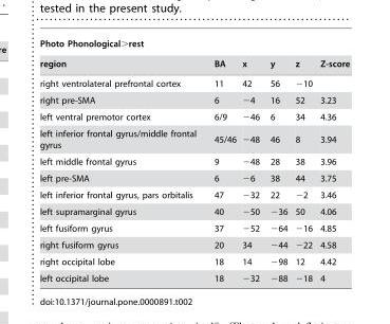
<table><thead><tr><td colspan="6">Photo Phonological&gt;rest</td></tr><tr><td>region</td><td>BA</td><td>x</td><td>y</td><td>z</td><td>Z-score</td></tr></thead><tbody><tr><td>right ventrolateral prefrontal cortex</td><td>11</td><td>42</td><td>56</td><td>−10</td><td></td></tr><tr><td>right pre-SMA</td><td>6</td><td>−4</td><td>16</td><td>52</td><td>3.23</td></tr><tr><td>left ventral premotor cortex</td><td>6/9</td><td>−46</td><td>6</td><td>34</td><td>4.36</td></tr><tr><td>left inferior frontal gyrus/middle frontal gyrus</td><td>45/46</td><td>−48</td><td>46</td><td>8</td><td>3.94</td></tr><tr><td>left middle frontal gyrus</td><td>9</td><td>−48</td><td>28</td><td>38</td><td>3.96</td></tr><tr><td>left pre-SMA</td><td>6</td><td>−6</td><td>38</td><td>44</td><td>3.75</td></tr><tr><td>left inferior frontal gyrus, pars orbitalis</td><td>47</td><td>−32</td><td>22</td><td>−2</td><td>3.46</td></tr><tr><td>left supramarginal gyrus</td><td>40</td><td>−50</td><td>−36</td><td>50</td><td>4.06</td></tr><tr><td>left fusiform gyrus</td><td>37</td><td>−52</td><td>−64</td><td>−16</td><td>4.85</td></tr><tr><td>right fusiform gyrus</td><td>20</td><td>34</td><td>−44</td><td>−22</td><td>4.58</td></tr><tr><td>right occipital lobe</td><td>18</td><td>14</td><td>−98</td><td>12</td><td>4.42</td></tr><tr><td>left occipital lobe</td><td>18</td><td>−32</td><td>−88</td><td>−18</td><td>4</td></tr></tbody></table>